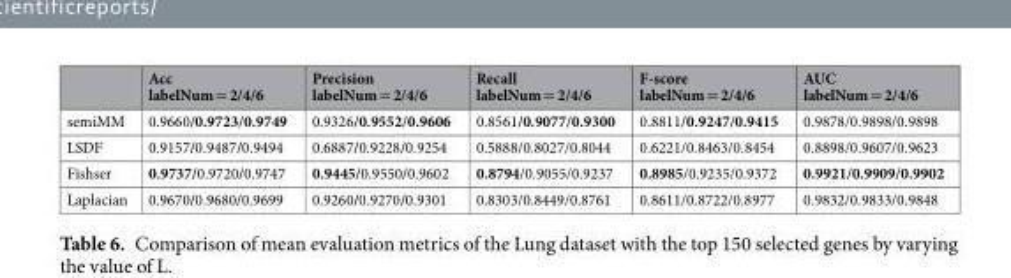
<table><thead><tr><td></td><td>Acc labelNum = 2/4/6</td><td>Precision labelNum = 2/4/6</td><td>Recall labelNum = 2/4/6</td><td>F-score labelNum = 2/4/6</td><td>AUC labelNum = 2/4/6</td></tr></thead><tbody><tr><td>semiMM</td><td>0.9660/0.9723/0.9749</td><td>0.9326/0.9552/0.9606</td><td>0.8561/0.9077/0.9300</td><td>0.8811/0.9247/0.9415</td><td>0.9878/0.9898/0.9898</td></tr><tr><td>LSDF</td><td>0.9157/0.9487/0.9494</td><td>0.6887/0.9228/0.9254</td><td>0.5888/0.8027/0.8044</td><td>0.6221/0.8463/0.8454</td><td>0.8898/0.9607/0.9623</td></tr><tr><td>Fishser</td><td>0.9737/0.9720/0.9747</td><td>0.9445/0.9550/0.9602</td><td>0.8794/0.9055/0.9237</td><td>0.8985/0.9235/0.9372</td><td>0.9921/0.9909/0.9902</td></tr><tr><td>Laplacian</td><td>0.9670/0.9680/0.9699</td><td>0.9260/0.9270/0.9301</td><td>0.8303/0.8449/0.8761</td><td>0.8611/0.8722/0.8977</td><td>0.9832/0.9833/0.9848</td></tr></tbody></table>